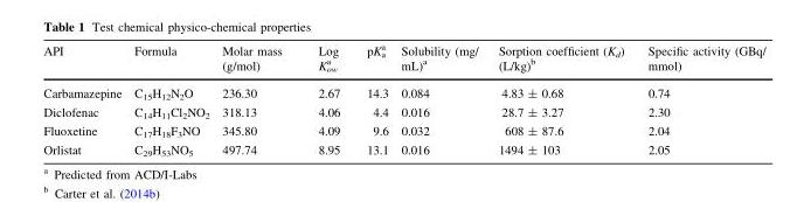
<table><thead><tr><td>API</td><td>Formula</td><td>Molar mass (g/mol)</td><td>Log K<sub>ow</sub> <sup>a</sup></td><td>pK<sub>a</sub> <sup>a</sup></td><td>Solubility (mg/ mL)<sup>a</sup></td><td>Sorption coefficient (K<sub>d</sub>) (L/kg)<sup>b</sup></td><td>Specific activity (GBq/ mmol)</td></tr></thead><tbody><tr><td>Carbamazepine</td><td>C<sub>15</sub>H<sub>12</sub>N<sub>2</sub>O</td><td>236.30</td><td>2.67</td><td>14.3</td><td>0.084</td><td>4.83 ± 0.68</td><td>0.74</td></tr><tr><td>Diclofenac</td><td>C<sub>14</sub>H<sub>11</sub>Cl<sub>2</sub>NO<sub>2</sub></td><td>318.13</td><td>4.06</td><td>4.4</td><td>0.016</td><td>28.7 ± 3.27</td><td>2.30</td></tr><tr><td>Fluoxetine</td><td>C<sub>17</sub>H<sub>18</sub>F<sub>3</sub>NO</td><td>345.80</td><td>4.09</td><td>9.6</td><td>0.032</td><td>608 ± 87.6</td><td>2.04</td></tr><tr><td>Orlistat</td><td>C<sub>29</sub>H<sub>53</sub>NO<sub>5</sub></td><td>497.74</td><td>8.95</td><td>13.1</td><td>0.016</td><td>1494 ± 103</td><td>2.05</td></tr></tbody></table>